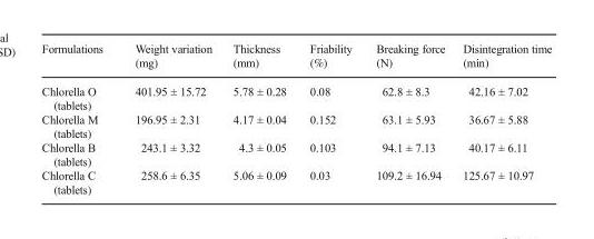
<table><thead><tr><td>Formulations</td><td>Weight variation (mg)</td><td>Thickness (mm)</td><td>Friability (%)</td><td>Breaking force (N)</td><td>Disintegration time (min)</td></tr></thead><tbody><tr><td>Chlorella O (tablets)</td><td>401.95 ± 15.72</td><td>5.78 ± 0.28</td><td>0.08</td><td>62.8 ± 8.3</td><td>42.16 ± 7.02</td></tr><tr><td>Chlorella M (tablets)</td><td>196.95 ± 2.31</td><td>4.17 ± 0.04</td><td>0.152</td><td>63.1 ± 5.93</td><td>36.67 ± 5.88</td></tr><tr><td>Chlorella B (tablets)</td><td>243.1 ± 3.32</td><td>4.3 ± 0.05</td><td>0.103</td><td>94.1 ± 7.13</td><td>40.17 ± 6.11</td></tr><tr><td>Chlorella C (tablets)</td><td>258.6 ± 6.35</td><td>5.06 ± 0.09</td><td>0.03</td><td>109.2 ± 16.94</td><td>125.67 ± 10.97</td></tr></tbody></table>